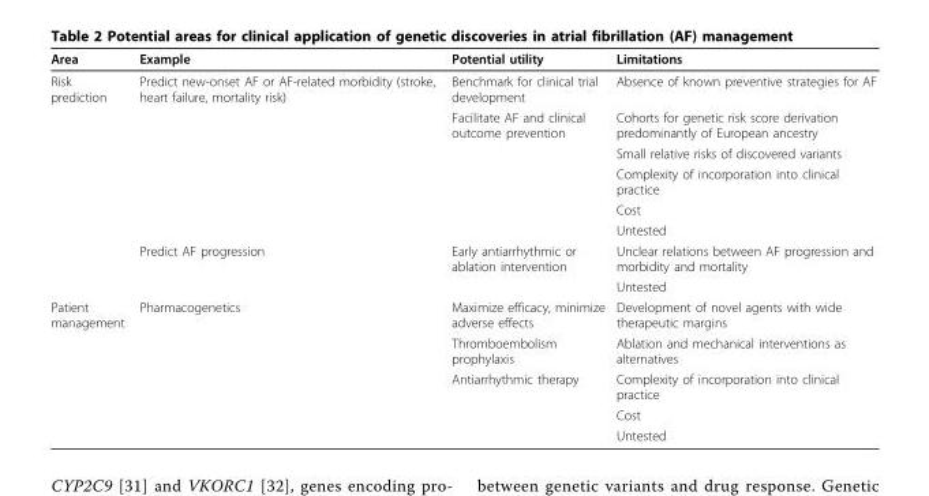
<table><thead><tr><td>Area</td><td>Example</td><td>Potential utility</td><td>Limitations</td></tr></thead><tbody><tr><td rowspan="8">Risk prediction</td><td>Predict new-onset AF or AF-related morbidity (stroke, heart failure, mortality risk)</td><td>Benchmark for clinical trial development</td><td>Absence of known preventive strategies for AF</td></tr><tr><td></td><td>Facilitate AF and clinical outcome prevention</td><td>Cohorts for genetic risk score derivation predominantly of European ancestry</td></tr><tr><td></td><td></td><td>Small relative risks of discovered variants</td></tr><tr><td></td><td></td><td>Complexity of incorporation into clinical practice</td></tr><tr><td></td><td></td><td>Cost</td></tr><tr><td></td><td></td><td>Untested</td></tr><tr><td>Predict AF progression</td><td>Early antiarrhythmic or ablation intervention</td><td>Unclear relations between AF progression and morbidity and mortality</td></tr><tr><td></td><td></td><td>Untested</td></tr><tr><td rowspan="5">Patient management</td><td>Pharmacogenetics</td><td>Maximize efficacy, minimize adverse effects</td><td>Development of novel agents with wide therapeutic margins</td></tr><tr><td></td><td>Thromboembolism prophylaxis</td><td>Ablation and mechanical interventions as alternatives</td></tr><tr><td></td><td>Antiarrhythmic therapy</td><td>Complexity of incorporation into clinical practice</td></tr><tr><td></td><td></td><td>Cost</td></tr><tr><td></td><td></td><td>Untested</td></tr></tbody></table>